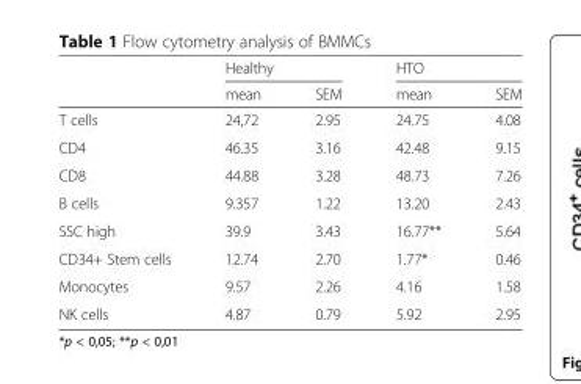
<table><thead><tr><td rowspan="2"></td><td colspan="2">Healthy</td><td colspan="2">HTO</td></tr><tr><td>mean</td><td>SEM</td><td>mean</td><td>SEM</td></tr></thead><tbody><tr><td>T cells</td><td>24,72</td><td>2.95</td><td>24.75</td><td>4.08</td></tr><tr><td>CD4</td><td>46.35</td><td>3.16</td><td>42.48</td><td>9.15</td></tr><tr><td>CD8</td><td>44.88</td><td>3.28</td><td>48.73</td><td>7.26</td></tr><tr><td>B cells</td><td>9.357</td><td>1.22</td><td>13.20</td><td>2.43</td></tr><tr><td>SSC high</td><td>39.9</td><td>3.43</td><td>16.77**</td><td>5.64</td></tr><tr><td>CD34+ Stem cells</td><td>12.74</td><td>2.70</td><td>1.77*</td><td>0.46</td></tr><tr><td>Monocytes</td><td>9.57</td><td>2.26</td><td>4.16</td><td>1.58</td></tr><tr><td>NK cells</td><td>4.87</td><td>0.79</td><td>5.92</td><td>2.95</td></tr></tbody></table>